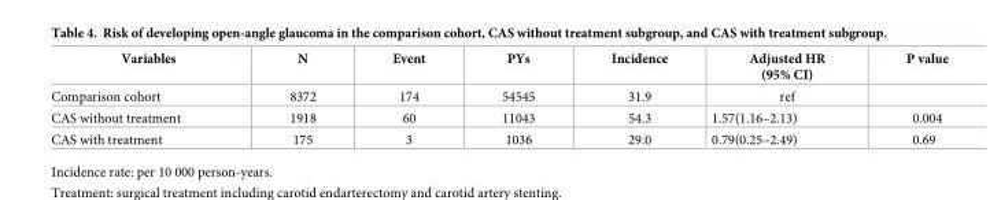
<table><thead><tr><td>Variables</td><td>N</td><td>Event</td><td>PYs</td><td>Incidence</td><td>Adjusted HR (95% CI)</td><td>P value</td></tr></thead><tbody><tr><td>Comparison cohort</td><td>8372</td><td>174</td><td>54545</td><td>31.9</td><td>ref</td><td></td></tr><tr><td>CAS without treatment</td><td>1918</td><td>60</td><td>11043</td><td>54.3</td><td>1.57(1.16–2.13)</td><td>0.004</td></tr><tr><td>CAS with treatment</td><td>175</td><td>3</td><td>1036</td><td>29.0</td><td>0.79(0.25–2.49)</td><td>0.69</td></tr></tbody></table>